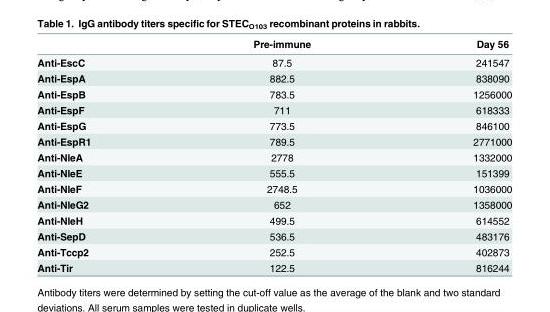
<table><thead><tr><td></td><td>Pre-immune</td><td>Day 56</td></tr></thead><tbody><tr><td>Anti-EscC</td><td>87.5</td><td>241547</td></tr><tr><td>Anti-EspA</td><td>882.5</td><td>838090</td></tr><tr><td>Anti-EspB</td><td>783.5</td><td>1256000</td></tr><tr><td>Anti-EspF</td><td>711</td><td>618333</td></tr><tr><td>Anti-EspG</td><td>773.5</td><td>846100</td></tr><tr><td>Anti-EspR1</td><td>789.5</td><td>2771000</td></tr><tr><td>Anti-NleA</td><td>2778</td><td>1332000</td></tr><tr><td>Anti-NleE</td><td>555.5</td><td>151399</td></tr><tr><td>Anti-NleF</td><td>2748.5</td><td>1036000</td></tr><tr><td>Anti-NleG2</td><td>652</td><td>1358000</td></tr><tr><td>Anti-NleH</td><td>499.5</td><td>614552</td></tr><tr><td>Anti-SepD</td><td>536.5</td><td>483176</td></tr><tr><td>Anti-Tccp2</td><td>252.5</td><td>402873</td></tr><tr><td>Anti-Tir</td><td>122.5</td><td>816244</td></tr></tbody></table>